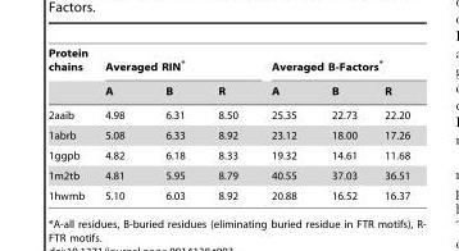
<table><thead><tr><td rowspan="2">Protein chains</td><td colspan="3">Averaged RIN*</td><td colspan="3">Averaged B-Factors*</td></tr><tr><td>A</td><td>B</td><td>R</td><td>A</td><td>B</td><td>R</td></tr></thead><tbody><tr><td>2aaib</td><td>4.98</td><td>6.31</td><td>8.50</td><td>25.35</td><td>22.73</td><td>22.20</td></tr><tr><td>1abrb</td><td>5.08</td><td>6.33</td><td>8.92</td><td>23.12</td><td>18.00</td><td>17.26</td></tr><tr><td>1ggpb</td><td>4.82</td><td>6.18</td><td>8.33</td><td>19.32</td><td>14.61</td><td>11.68</td></tr><tr><td>1m2tb</td><td>4.81</td><td>5.95</td><td>8.79</td><td>40.55</td><td>37.03</td><td>36.51</td></tr><tr><td>1hwmb</td><td>5.10</td><td>6.03</td><td>8.92</td><td>20.88</td><td>16.52</td><td>16.37</td></tr></tbody></table>